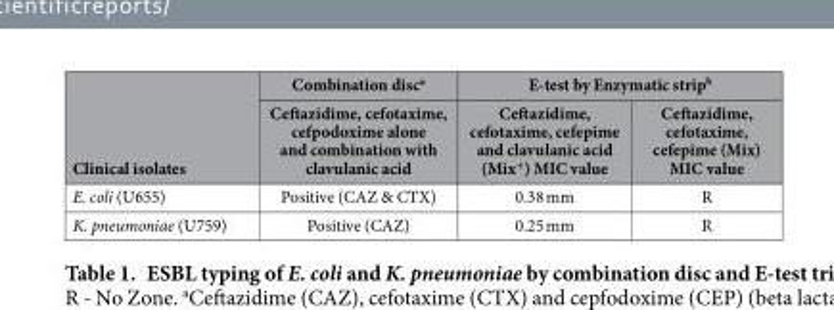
<table><thead><tr><td rowspan="2">Clinical isolates</td><td rowspan="2">Combination disc<sup>a</sup> Ceftazidime, cefotaxime, cefpodoxime alone and combination with clavulanic acid</td><td colspan="2">E-test by Enzymatic strip<sup>b</sup></td></tr><tr><td>Ceftazidime, cefotaxime, cefepime and clavulanic acid (Mix<sup>+</sup>) MIC value</td><td>Ceftazidime, cefotaxime, cefepime (Mix) MIC value</td></tr></thead><tbody><tr><td>E. coli (U655)</td><td>Positive (CAZ &amp; CTX)</td><td>0.38 mm</td><td>R</td></tr><tr><td>K. pneumoniae (U759)</td><td>Positive (CAZ)</td><td>0.25 mm</td><td>R</td></tr></tbody></table>